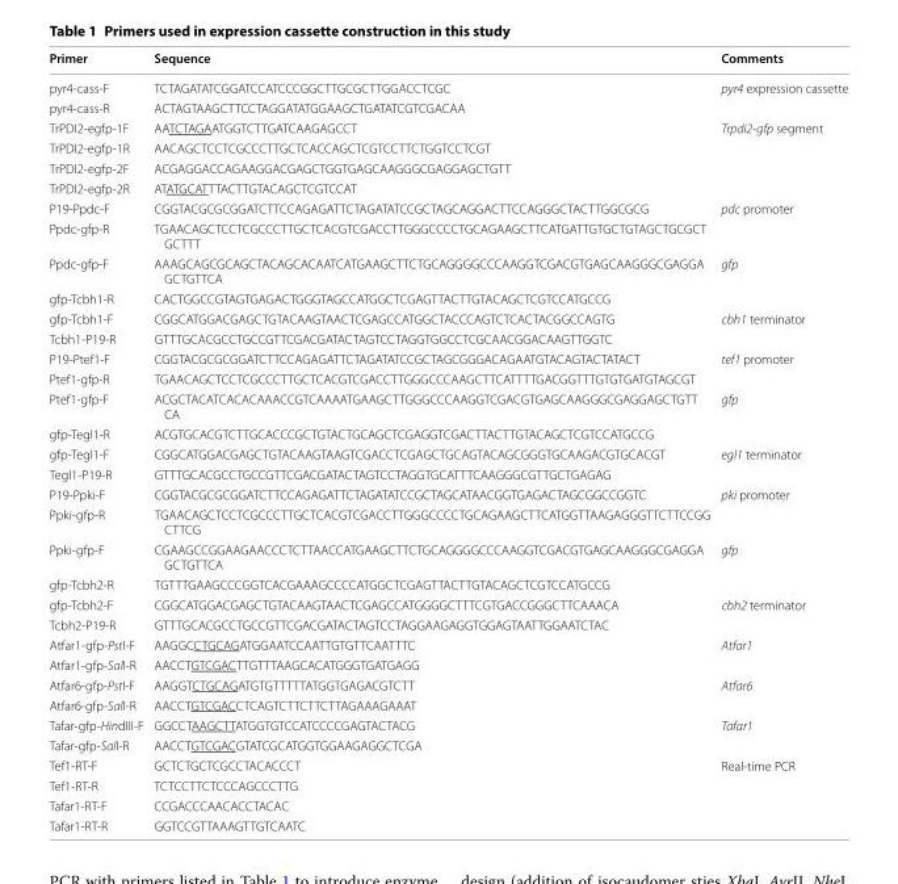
<table><thead><tr><td>Primer</td><td>Sequence</td><td>Comments</td></tr></thead><tbody><tr><td>pyr4-cass-F</td><td>TCT AGA TAT CGG ATC CAT CCC GGC TTG CGC TTG GAC CTCGC</td><td rowspan="2">pyr4 expression cassette</td></tr><tr><td>pyr4-cass-R</td><td>ACT AGT AAG CTT CCT AGG ATA TGG AAG CTG ATA TCG TCG ACA A</td></tr><tr><td>TrPDI2-egfp-1F</td><td>AATCT AGA ATG GTC TTG ATC AAG AGC CT</td><td rowspan="4">Trpdi2-gfp segment</td></tr><tr><td>TrPDI2-egfp-1R</td><td>AAC AGC TCC TCG CCC TTG CTC ACC AGC TCG TCC TTC TGG TCC TCGT</td></tr><tr><td>TrPDI2-egfp-2F</td><td>ACG AGG ACC AGA AGG ACG AGC TGG TGA GCA AGG GCG AGG AGC TGTT</td></tr><tr><td>TrPDI2-egfp-2R</td><td>ATATG CAT TTA CTT GTA CAG CTC GTC CAT</td></tr><tr><td>P19-Ppdc-F</td><td>CGG TAC GCG CGG ATC TTC CAG AGA TTC TAG ATA TCC GCT AGC AGG ACT TCC AGG GCT ACT TGG CGC G</td><td rowspan="2">pdc promoter</td></tr><tr><td>Ppdc-gfp-R</td><td>TGA ACA GCT CCT CGC CCT TGC TCA CGT CGA CCT TGG GCC CCT GCA GAA GCT TCA TGA TTG TGC TGT AGC TGC GCT GCT TT</td></tr><tr><td>Ppdc-gfp-F</td><td>AAA GCA GCG CAG CTA CAG CAC AAT CAT GAA GCT TCT GCA GGG GCC CAA GGT CGA CGT GAG CAA GGG CGA GGA GCT GTT CA</td><td rowspan="2">gfp</td></tr><tr><td>gfp-Tcbh1-R</td><td>CAC TGG CCG TAG TGA GAC TGG GTA GCC ATG GCT CGA GTT ACT TGT ACA GCT CGT CCA TGC CG</td></tr><tr><td>gfp-Tcbh1-F</td><td>CGG CAT GGA CGA GCT GTA CAA GTA ACT CGA GCC ATG GCT ACC CAG TCT CAC TAC GGC CAG TG</td><td rowspan="2">cbh1 terminator</td></tr><tr><td>Tcbh1-P19-R</td><td>GTT TGC ACG CCT GCC GTT CGA CGA TAC TAG TCC TAG GTG GCC TCG CAA CGG ACA AGT TGG TC</td></tr><tr><td>P19-Ptef1-F</td><td>CGG TAC GCG CGG ATC TTC CAG AGA TTC TAG ATA TCC GCT AGC GGG ACA GAA TGT ACA GTA CTA TAC T</td><td rowspan="2">tef1 promoter</td></tr><tr><td>Ptef1-gfp-R</td><td>TGA ACA GCT CCT CGC CCT TGC TCA CGT CGA CCT TGG GCC CAA GCT TCA TTT TGA CGG TTT GTG TGA TGT AGC GT</td></tr><tr><td>Ptef1-gfp-F</td><td>ACG CTA CAT CAC ACA AAC CGT CAA AAT GAA GCT TGG GCC CAA GGT CGA CGT GAG CAA GGG CGA GGA GCT GTT CA</td><td rowspan="2">gfp</td></tr><tr><td>gfp-Tegl1-R</td><td>ACG TGC ACG TCT TGC ACC CGC TGT ACT GCA GCT CGA GGT CGA CTT ACT TGT ACA GCT CGT CCA TGC CG</td></tr><tr><td>gfp-Tegl1-F</td><td>CGG CAT GGA CGA GCT GTA CAA GTA AGT CGA CCT CGA GCT GCA GTA CAG CGG GTG CAA GAC GTG CAC GT</td><td rowspan="2">egl1 terminator</td></tr><tr><td>Tegl1-P19-R</td><td>GTT TGC ACG CCT GCC GTT CGA CGA TAC TAG TCC TAG GTG CAT TTC AAG GGC GTT GCT GAG AG</td></tr><tr><td>P19-Ppki-F</td><td>CGG TAC GCG CGG ATC TTC CAG AGA TTC TAG ATA TCC GCT AGC ATA ACG GTG AGA CTA GCG GCC GGT C</td><td rowspan="2">pki promoter</td></tr><tr><td>Ppki-gfp-R</td><td>TGA ACA GCT CCT CGC CCT TGC TCA CGT CGA CCT TGG GCC CCT GCA GAA GCT TCA TGG TTA AGA GGG TTC TTC CGG CTT CG</td></tr><tr><td>Ppki-gfp-F</td><td>CGA AGC CGG AAG AAC CCT CTT AAC CAT GAA GCT TCT GCA GGG GCC CAA GGT CGA CGT GAG CAA GGG CGA GGA GCT GTT CA</td><td rowspan="2">gfp</td></tr><tr><td>gfp-Tcbh2-R</td><td>TGT TTG AAG CCC GGT CAC GAA AGC CCC ATG GCT CGA GTT ACT TGT ACA GCT CGT CCA TGC CG</td></tr><tr><td>gfp-Tcbh2-F</td><td>CGG CAT GGA CGA GCT GTA CAA GTA ACT CGA GCC ATG GGG CTT TCG TGA CCG GGC TTC AAA CA</td><td rowspan="2">cbh2 terminator</td></tr><tr><td>Tcbh2-P19-R</td><td>GTT TGC ACG CCT GCC GTT CGA CGA TAC TAG TCC TAG GAA GAG GTG GAG TAA TTG GAA TCT AC</td></tr><tr><td>Atfar1-gfp-PstI-F</td><td>AAGGC CTG CAG ATG GAA TCC AAT TGT GTT CAA TTT C</td><td rowspan="2">Atfar1</td></tr><tr><td>Atfar1-gfp-SalI-R</td><td>AACCT GTC GAC TTG TTT AAG CAC ATG GGT GAT GAG G</td></tr><tr><td>Atfar6-gfp-PstI-F</td><td>AAGGT CTG CAG ATG TGT TTT TAT GGT GAG ACG TCT T</td><td rowspan="2">Atfar6</td></tr><tr><td>Atfar6-gfp-SalI-R</td><td>AACCT GTC GAC CTC AGT CTT CTT CTT AGA AAG AAA T</td></tr><tr><td>Tafar-gfp-HindIII-F</td><td>GGCCT AAG CTT ATG GTG TCC ATC CCC GAG TAC TAC G</td><td>Tafar1</td></tr><tr><td>Tafar-gfp-SalI-R</td><td>AACCT GTC GAC GTA TCG CAT GGT GGA AGA GGC TCG A</td><td></td></tr><tr><td>Tef1-RT-F</td><td>GCT CTG CTC GCC TAC ACC CT</td><td rowspan="4">Real-time PCR</td></tr><tr><td>Tef1-RT-R</td><td>TCT CCT TCT CCC AGC CCT TG</td></tr><tr><td>Tafar1-RT-F</td><td>CCG ACC CAA CAC CTA CAC</td></tr><tr><td>Tafar1-RT-R</td><td>GGT CCG TTA AAG TTG TCA ATC</td></tr></tbody></table>